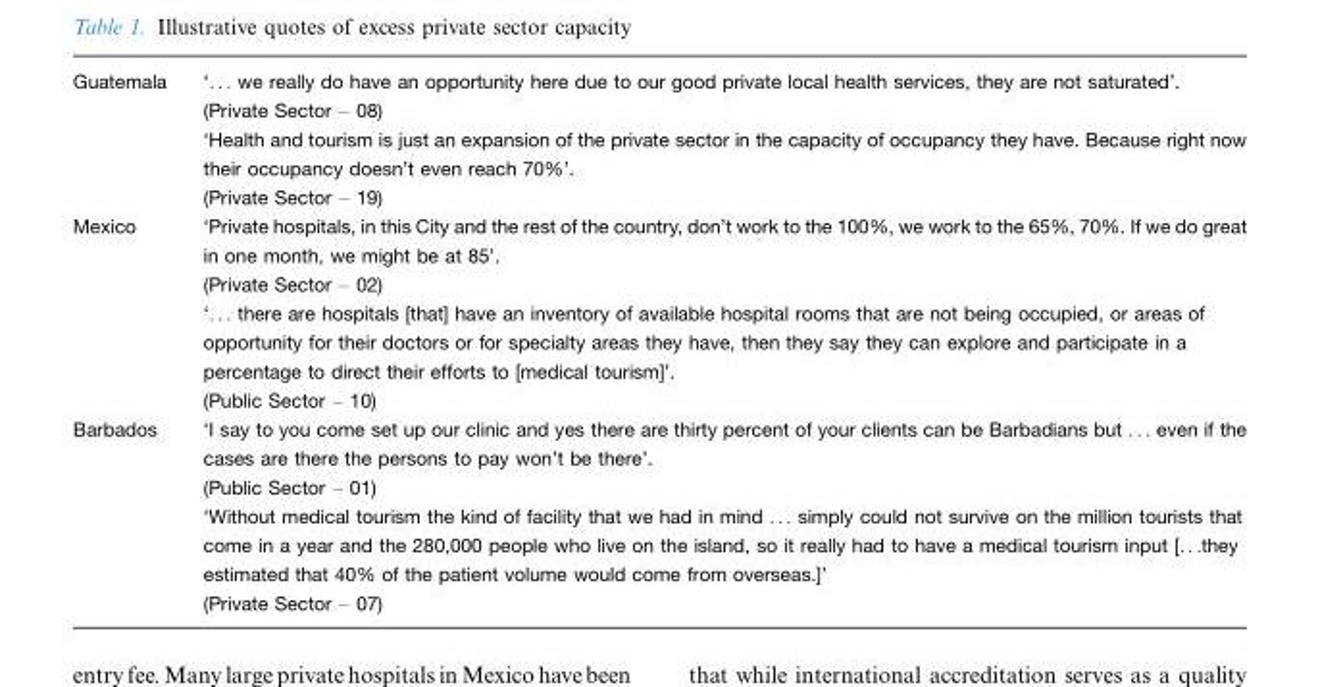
<table><tbody><tr><td>Guatemala</td><td>‘. . . we really do have an opportunity here due to our good private local health services, they are not saturated’. (Private Sector � 08) ‘Health and tourism is just an expansion of the private sector in the capacity of occupancy they have. Because right now their occupancy doesn’t even reach 70%’. (Private Sector � 19)</td></tr><tr><td>Mexico</td><td>‘Private hospitals, in this City and the rest of the country, don’t work to the 100%, we work to the 65%, 70%. If we do great in one month, we might be at 85’. (Private Sector � 02) ‘. . . there are hospitals [that] have an inventory of available hospital rooms that are not being occupied, or areas of opportunity for their doctors or for specialty areas they have, then they say they can explore and participate in a percentage to direct their efforts to [medical tourism]’. (Public Sector � 10)</td></tr><tr><td>Barbados</td><td>‘I say to you come set up our clinic and yes there are thirty percent of your clients can be Barbadians but . . . even if the cases are there the persons to pay won’t be there’. (Public Sector � 01) ‘Without medical tourism the kind of facility that we had in mind . . . simply could not survive on the million tourists that come in a year and the 280,000 people who live on the island, so it really had to have a medical tourism input [. . .they estimated that 40% of the patient volume would come from overseas.]’ (Private Sector � 07)</td></tr></tbody></table>